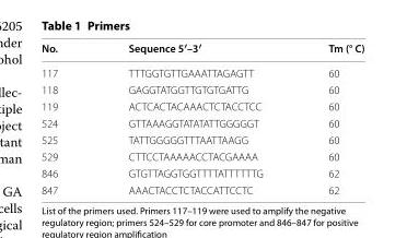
<table><thead><tr><td>No.</td><td>Sequence 5′–3′</td><td>Tm (° C)</td></tr></thead><tbody><tr><td>117</td><td>TTTGGTGTTGAAATTAGAGTT</td><td>60</td></tr><tr><td>118</td><td>GAGGTATGGTTGTGTGATTG</td><td>60</td></tr><tr><td>119</td><td>ACTCACTACAAACTCTACCTCC</td><td>60</td></tr><tr><td>524</td><td>GTTAAAGGTATATATTGGGGGT</td><td>60</td></tr><tr><td>525</td><td>TATTGGGGGTTTAATTAAGG</td><td>60</td></tr><tr><td>529</td><td>CTTCCTAAAAACCTACGAAAA</td><td>60</td></tr><tr><td>846</td><td>GTGTTAGGTGGTTTTATTTTTTG</td><td>62</td></tr><tr><td>847</td><td>AAACTACCTCTACCATTCCTC</td><td>62</td></tr></tbody></table>